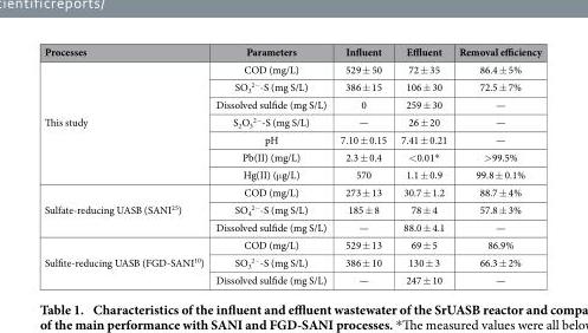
<table><thead><tr><td>Processes</td><td>Parameters</td><td>Influent</td><td>Effluent</td><td>Removal efficiency</td></tr></thead><tbody><tr><td rowspan="7">This study</td><td>COD (mg/L)</td><td>529 ± 50</td><td>72 ± 35</td><td>86.4 ± 5%</td></tr><tr><td>SO<sub>3</sub> <sup>2−</sup>-S (mg S/L)</td><td>386 ± 15</td><td>106 ± 30</td><td>72.5 ± 7%</td></tr><tr><td>Dissolved sulfide (mg S/L)</td><td>0</td><td>259 ± 30</td><td>—</td></tr><tr><td>S<sub>2</sub>O<sub>3</sub> <sup>2−</sup>-S (mg S/L)</td><td>—</td><td>26 ± 20</td><td>—</td></tr><tr><td>pH</td><td>7.10 ± 0.15</td><td>7.41 ± 0.21</td><td>—</td></tr><tr><td>Pb(II) (mg/L)</td><td>2.3 ± 0.4</td><td>&lt; 0.01*</td><td>&gt; 99.5%</td></tr><tr><td>Hg(II) (μ g/L)</td><td>570</td><td>1.1 ± 0.9</td><td>99.8 ± 0.1%</td></tr><tr><td rowspan="3">Sulfate-reducing UASB (SANI<sup>25</sup>)</td><td>COD (mg/L)</td><td>273 ± 13</td><td>30.7 ± 1.2</td><td>88.7 ± 4%</td></tr><tr><td>SO<sub>4</sub> <sup>2−</sup>-S (mg S/L)</td><td>185 ± 8</td><td>78 ± 4</td><td>57.8 ± 3%</td></tr><tr><td>Dissolved sulfide (mg S/L)</td><td>—</td><td>88.0 ± 4.1</td><td>—</td></tr><tr><td rowspan="3">Sulfite-reducing UASB (FGD-SANI<sup>10</sup>)</td><td>COD (mg/L)</td><td>529 ± 13</td><td>69 ± 5</td><td>86.9%</td></tr><tr><td>SO<sub>3</sub> <sup>2−</sup>-S (mg S/L)</td><td>386 ± 10</td><td>130 ± 3</td><td>66.3 ± 2%</td></tr><tr><td>Dissolved sulfide (mg S/L)</td><td>—</td><td>247 ± 10</td><td>—</td></tr></tbody></table>